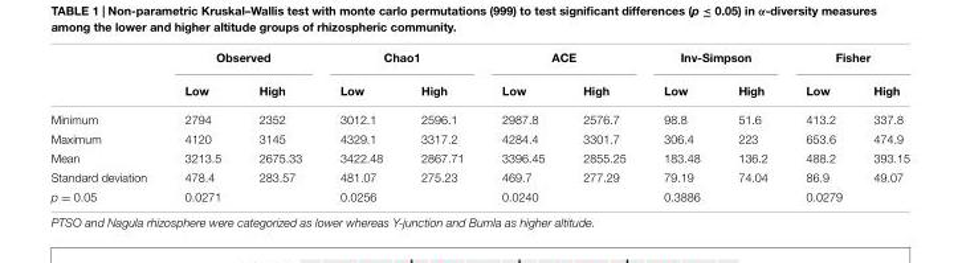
<table><thead><tr><td rowspan="2"></td><td colspan="2">Observed</td><td colspan="2">Chao1</td><td colspan="2">ACE</td><td colspan="2">Inv-Simpson</td><td colspan="2">Fisher</td></tr><tr><td>Low</td><td>High</td><td>Low</td><td>High</td><td>Low</td><td>High</td><td>Low</td><td>High</td><td>Low</td><td>High</td></tr></thead><tbody><tr><td>Minimum</td><td>2794</td><td>2352</td><td>3012.1</td><td>2596.1</td><td>2987.8</td><td>2576.7</td><td>98.8</td><td>51.6</td><td>413.2</td><td>337.8</td></tr><tr><td>Maximum</td><td>4120</td><td>3145</td><td>4329.1</td><td>3317.2</td><td>4284.4</td><td>3301.7</td><td>306.4</td><td>223</td><td>653.6</td><td>474.9</td></tr><tr><td>Mean</td><td>3213.5</td><td>2675.33</td><td>3422.48</td><td>2867.71</td><td>3396.45</td><td>2855.25</td><td>183.48</td><td>136.2</td><td>488.2</td><td>393.15</td></tr><tr><td>Standard deviation</td><td>478.4</td><td>283.57</td><td>481.07</td><td>275.23</td><td>469.7</td><td>277.29</td><td>79.19</td><td>74.04</td><td>86.9</td><td>49.07</td></tr><tr><td>p = 0.05</td><td colspan="2">0.0271</td><td colspan="2">0.0256</td><td colspan="2">0.0240</td><td colspan="2">0.3886</td><td colspan="2">0.0279</td></tr></tbody></table>